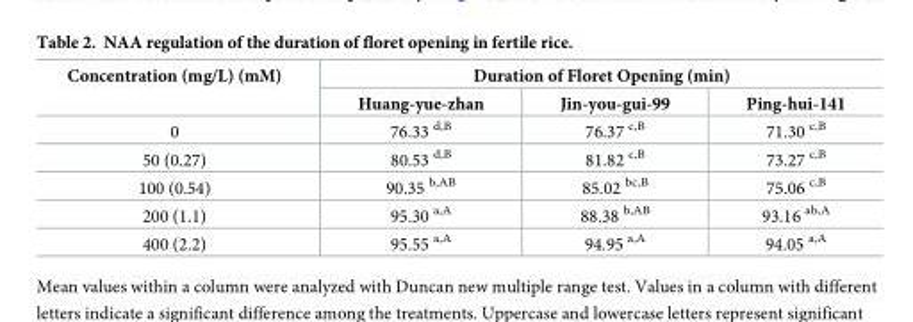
<table><thead><tr><td rowspan="2">Concentration (mg/L) (mM)</td><td colspan="3">Duration of Floret Opening (min)</td></tr><tr><td>Huang-yue-zhan</td><td>Jin-you-gui-99</td><td>Ping-hui-141</td></tr></thead><tbody><tr><td>0</td><td>76.33 <sup>d,B</sup></td><td>76.37 <sup>c,B</sup></td><td>71.30 <sup>c,B</sup></td></tr><tr><td>50 (0.27)</td><td>80.53 <sup>d,B</sup></td><td>81.82 <sup>c,B</sup></td><td>73.27 <sup>c,B</sup></td></tr><tr><td>100 (0.54)</td><td>90.35 <sup>b,AB</sup></td><td>85.02 <sup>bc,B</sup></td><td>75.06 <sup>c,B</sup></td></tr><tr><td>200 (1.1)</td><td>95.30 <sup>a,A</sup></td><td>88.38 <sup>b,AB</sup></td><td>93.16 <sup>ab,A</sup></td></tr><tr><td>400 (2.2)</td><td>95.55 <sup>a,A</sup></td><td>94.95 <sup>a,A</sup></td><td>94.05 <sup>a,A</sup></td></tr></tbody></table>